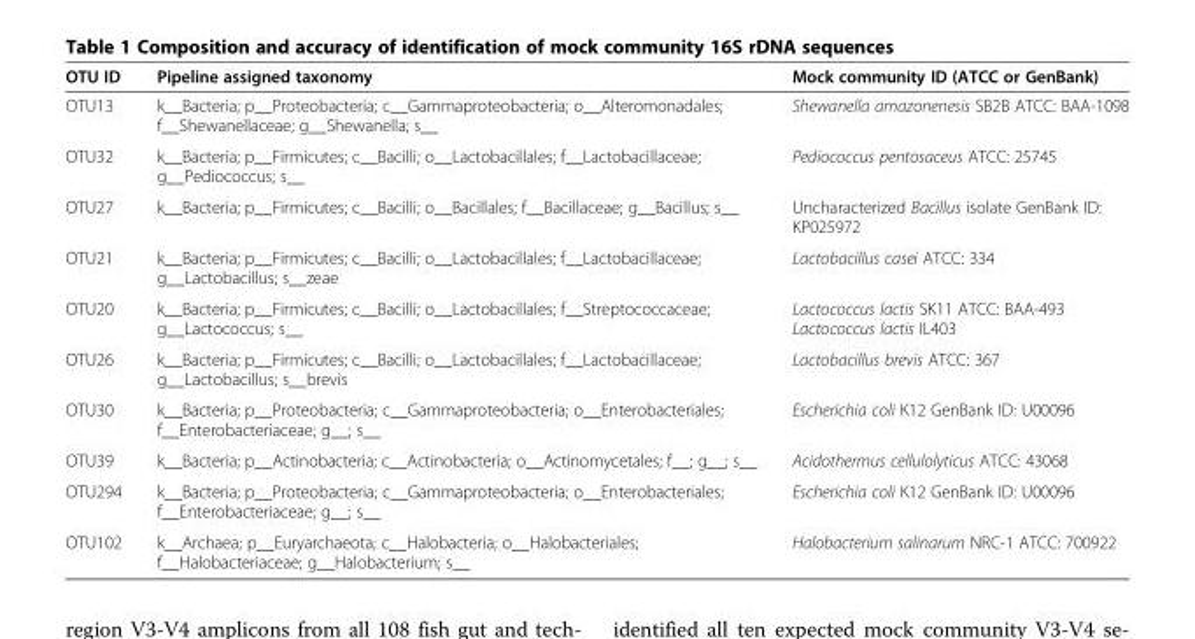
<table><thead><tr><td>OTU ID</td><td>Pipeline assigned taxonomy</td><td>Mock community ID (ATCC or GenBank)</td></tr></thead><tbody><tr><td>OTU13</td><td>k__Bacteria; p__Proteobacteria; c__Gammaproteobacteria; o__Alteromonadales; f__Shewanellaceae; g__Shewanella; s__</td><td>Shewanella amazonenesis SB2B ATCC: BAA-1098</td></tr><tr><td>OTU32</td><td>k__Bacteria; p__Firmicutes; c__Bacilli; o__Lactobacillales; f__Lactobacillaceae; g__Pediococcus; s__</td><td>Pediococcus pentosaceus ATCC: 25745</td></tr><tr><td>OTU27</td><td>k__Bacteria; p__Firmicutes; c__Bacilli; o__Bacillales; f__Bacillaceae; g__Bacillus; s__</td><td>Uncharacterized Bacillus isolate GenBank ID: KP025972</td></tr><tr><td>OTU21</td><td>k__Bacteria; p__Firmicutes; c__Bacilli; o__Lactobacillales; f__Lactobacillaceae; g__Lactobacillus; s__zeae</td><td>Lactobacillus casei ATCC: 334</td></tr><tr><td>OTU20</td><td>k__Bacteria; p__Firmicutes; c__Bacilli; o__Lactobacillales; f__Streptococcaceae; g__Lactococcus; s__</td><td>Lactococcus lactis SK11 ATCC: BAA-493 Lactococcus lactis IL403</td></tr><tr><td>OTU26</td><td>k__Bacteria; p__Firmicutes; c__Bacilli; o__Lactobacillales; f__Lactobacillaceae; g__Lactobacillus; s__brevis</td><td>Lactobacillus brevis ATCC: 367</td></tr><tr><td>OTU30</td><td>k__Bacteria; p__Proteobacteria; c__Gammaproteobacteria; o__Enterobacteriales; f__Enterobacteriaceae; g__; s__</td><td>Escherichia coli K12 GenBank ID: U00096</td></tr><tr><td>OTU39</td><td>k__Bacteria; p__Actinobacteria; c__Actinobacteria; o__Actinomycetales; f__; g__; s__</td><td>Acidothermus cellulolyticus ATCC: 43068</td></tr><tr><td>OTU294</td><td>k__Bacteria; p__Proteobacteria; c__Gammaproteobacteria; o__Enterobacteriales; f__Enterobacteriaceae; g__; s__</td><td>Escherichia coli K12 GenBank ID: U00096</td></tr><tr><td>OTU102</td><td>k__Archaea; p__Euryarchaeota; c__Halobacteria; o__Halobacteriales; f__Halobacteriaceae; g__Halobacterium; s__</td><td>Halobacterium salinarum NRC-1 ATCC: 700922</td></tr></tbody></table>